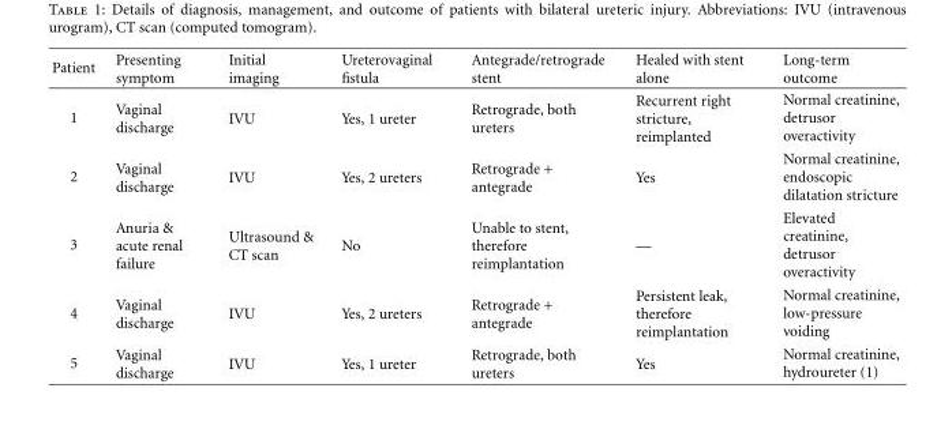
<table><thead><tr><td>Patient</td><td>Presenting symptom</td><td>Initial imaging</td><td>Ureterovaginal fistula</td><td>Antegrade/retrograde stent</td><td>Healed with stent alone</td><td>Long-term outcome</td></tr></thead><tbody><tr><td>1</td><td>Vaginal discharge</td><td>IVU</td><td>Yes, 1 ureter</td><td>Retrograde, both ureters</td><td>Recurrent right stricture, reimplanted</td><td>Normal creatinine, detrusor overactivity</td></tr><tr><td>2</td><td>Vaginal discharge</td><td>IVU</td><td>Yes, 2 ureters</td><td>Retrograde + antegrade</td><td>Yes</td><td>Normal creatinine, endoscopic dilatation stricture</td></tr><tr><td>3</td><td>Anuria &amp; acute renal failure</td><td>Ultrasound &amp; CT scan</td><td>No</td><td>Unable to stent, therefore reimplantation</td><td>—</td><td>Elevated creatinine, detrusor overactivity</td></tr><tr><td>4</td><td>Vaginal discharge</td><td>IVU</td><td>Yes, 2 ureters</td><td>Retrograde + antegrade</td><td>Persistent leak, therefore reimplantation</td><td>Normal creatinine, low-pressure voiding</td></tr><tr><td>5</td><td>Vaginal discharge</td><td>IVU</td><td>Yes, 1 ureter</td><td>Retrograde, both ureters</td><td>Yes</td><td>Normal creatinine, hydroureter (1)</td></tr></tbody></table>